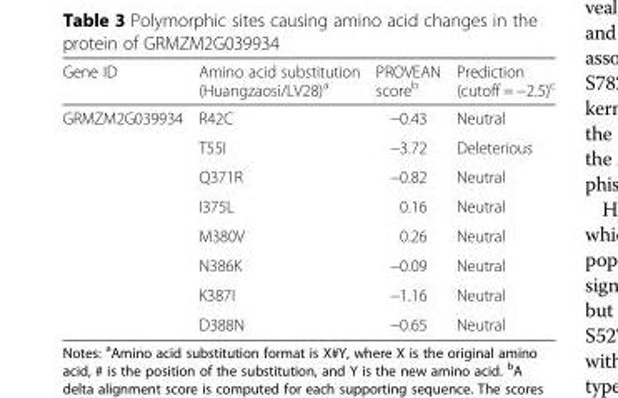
<table><thead><tr><td>Gene ID</td><td>Amino acid substitution (Huangzaosi/LV28)<sup>a</sup></td><td>PROVEAN score<sup>b</sup></td><td>Prediction (cutoff = −2.5)<sup>c</sup></td></tr></thead><tbody><tr><td rowspan="8">GRMZM2G039934</td><td>R42C</td><td>−0.43</td><td>Neutral</td></tr><tr><td>T55I</td><td>−3.72</td><td>Deleterious</td></tr><tr><td>Q371R</td><td>−0.82</td><td>Neutral</td></tr><tr><td>I375L</td><td>0.16</td><td>Neutral</td></tr><tr><td>M380V</td><td>0.26</td><td>Neutral</td></tr><tr><td>N386K</td><td>−0.09</td><td>Neutral</td></tr><tr><td>K387I</td><td>−1.16</td><td>Neutral</td></tr><tr><td>D388N</td><td>−0.65</td><td>Neutral</td></tr></tbody></table>